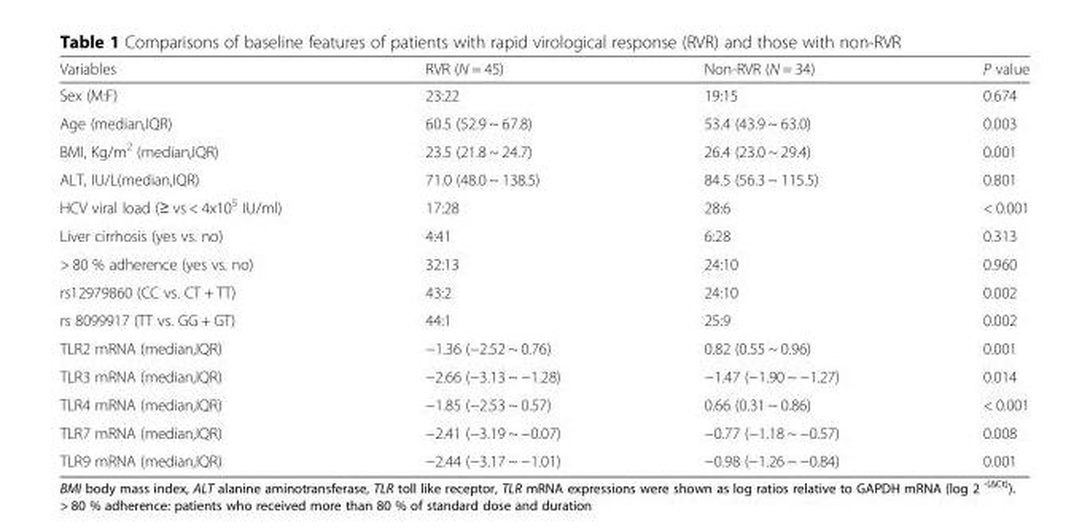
<table><thead><tr><td>Variables</td><td>RVR (N = 45)</td><td>Non-RVR (N = 34)</td><td>P value</td></tr></thead><tbody><tr><td>Sex (M:F)</td><td>23:22</td><td>19:15</td><td>0.674</td></tr><tr><td>Age (median,IQR)</td><td>60.5 (52.9 ~ 67.8)</td><td>53.4 (43.9 ~ 63.0)</td><td>0.003</td></tr><tr><td>BMI, Kg/m<sup>2</sup> (median,IQR)</td><td>23.5 (21.8 ~ 24.7)</td><td>26.4 (23.0 ~ 29.4)</td><td>0.001</td></tr><tr><td>ALT, IU/L(median,IQR)</td><td>71.0 (48.0 ~ 138.5)</td><td>84.5 (56.3 ~ 115.5)</td><td>0.801</td></tr><tr><td>HCV viral load (≥ vs &lt; 4x10<sup>5</sup> IU/ml)</td><td>17:28</td><td>28:6</td><td>&lt; 0.001</td></tr><tr><td>Liver cirrhosis (yes vs. no)</td><td>4:41</td><td>6:28</td><td>0.313</td></tr><tr><td>&gt; 80 % adherence (yes vs. no)</td><td>32:13</td><td>24:10</td><td>0.960</td></tr><tr><td>rs12979860 (CC vs. CT + TT)</td><td>43:2</td><td>24:10</td><td>0.002</td></tr><tr><td>rs 8099917 (TT vs. GG + GT)</td><td>44:1</td><td>25:9</td><td>0.002</td></tr><tr><td>TLR2 mRNA (median,IQR)</td><td>−1.36 (−2.52 ~ 0.76)</td><td>0.82 (0.55 ~ 0.96)</td><td>0.001</td></tr><tr><td>TLR3 mRNA (median,IQR)</td><td>−2.66 (−3.13 ~ −1.28)</td><td>−1.47 (−1.90 ~ −1.27)</td><td>0.014</td></tr><tr><td>TLR4 mRNA (median,IQR)</td><td>−1.85 (−2.53 ~ 0.57)</td><td>0.66 (0.31 ~ 0.86)</td><td>&lt; 0.001</td></tr><tr><td>TLR7 mRNA (median,IQR)</td><td>−2.41 (−3.19 ~ −0.07)</td><td>−0.77 (−1.18 ~ −0.57)</td><td>0.008</td></tr><tr><td>TLR9 mRNA (median,IQR)</td><td>−2.44 (−3.17 ~ −1.01)</td><td>−0.98 (−1.26 ~ −0.84)</td><td>0.001</td></tr></tbody></table>